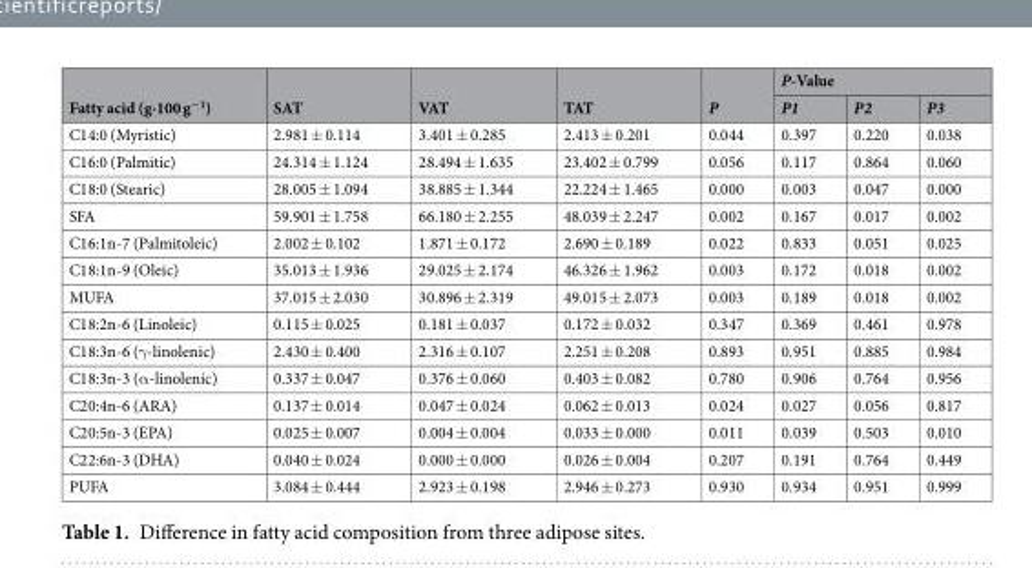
<table><thead><tr><td rowspan="2">Fatty acid (g·100 g<sup>−1</sup>)</td><td rowspan="2">SAT</td><td rowspan="2">VAT</td><td rowspan="2">TAT</td><td rowspan="2">P</td><td colspan="3">P-Value</td></tr><tr><td>P1</td><td>P2</td><td>P3</td></tr></thead><tbody><tr><td>C14:0 (Myristic)</td><td>2.981 ± 0.114</td><td>3.401 ± 0.285</td><td>2.413 ± 0.201</td><td>0.044</td><td>0.397</td><td>0.220</td><td>0.038</td></tr><tr><td>C16:0 (Palmitic)</td><td>24.314 ± 1.124</td><td>28.494 ± 1.635</td><td>23.402 ± 0.799</td><td>0.056</td><td>0.117</td><td>0.864</td><td>0.060</td></tr><tr><td>C18:0 (Stearic)</td><td>28.005 ± 1.094</td><td>38.885 ± 1.344</td><td>22.224 ± 1.465</td><td>0.000</td><td>0.003</td><td>0.047</td><td>0.000</td></tr><tr><td>SFA</td><td>59.901 ± 1.758</td><td>66.180 ± 2.255</td><td>48.039 ± 2.247</td><td>0.002</td><td>0.167</td><td>0.017</td><td>0.002</td></tr><tr><td>C16:1n-7 (Palmitoleic)</td><td>2.002 ± 0.102</td><td>1.871 ± 0.172</td><td>2.690 ± 0.189</td><td>0.022</td><td>0.833</td><td>0.051</td><td>0.025</td></tr><tr><td>C18:1n-9 (Oleic)</td><td>35.013 ± 1.936</td><td>29.025 ± 2.174</td><td>46.326 ± 1.962</td><td>0.003</td><td>0.172</td><td>0.018</td><td>0.002</td></tr><tr><td>MUFA</td><td>37.015 ± 2.030</td><td>30.896 ± 2.319</td><td>49.015 ± 2.073</td><td>0.003</td><td>0.189</td><td>0.018</td><td>0.002</td></tr><tr><td>C18:2n-6 (Linoleic)</td><td>0.115 ± 0.025</td><td>0.181 ± 0.037</td><td>0.172 ± 0.032</td><td>0.347</td><td>0.369</td><td>0.461</td><td>0.978</td></tr><tr><td>C18:3n-6 (γ-linolenic)</td><td>2.430 ± 0.400</td><td>2.316 ± 0.107</td><td>2.251 ± 0.208</td><td>0.893</td><td>0.951</td><td>0.885</td><td>0.984</td></tr><tr><td>C18:3n-3 (α-linolenic)</td><td>0.337 ± 0.047</td><td>0.376 ± 0.060</td><td>0.403 ± 0.082</td><td>0.780</td><td>0.906</td><td>0.764</td><td>0.956</td></tr><tr><td>C20:4n-6 (ARA)</td><td>0.137 ± 0.014</td><td>0.047 ± 0.024</td><td>0.062 ± 0.013</td><td>0.024</td><td>0.027</td><td>0.056</td><td>0.817</td></tr><tr><td>C20:5n-3 (EPA)</td><td>0.025 ± 0.007</td><td>0.004 ± 0.004</td><td>0.033 ± 0.000</td><td>0.011</td><td>0.039</td><td>0.503</td><td>0.010</td></tr><tr><td>C22:6n-3 (DHA)</td><td>0.040 ± 0.024</td><td>0.000 ± 0.000</td><td>0.026 ± 0.004</td><td>0.207</td><td>0.191</td><td>0.764</td><td>0.449</td></tr><tr><td>PUFA</td><td>3.084 ± 0.444</td><td>2.923 ± 0.198</td><td>2.946 ± 0.273</td><td>0.930</td><td>0.934</td><td>0.951</td><td>0.999</td></tr></tbody></table>